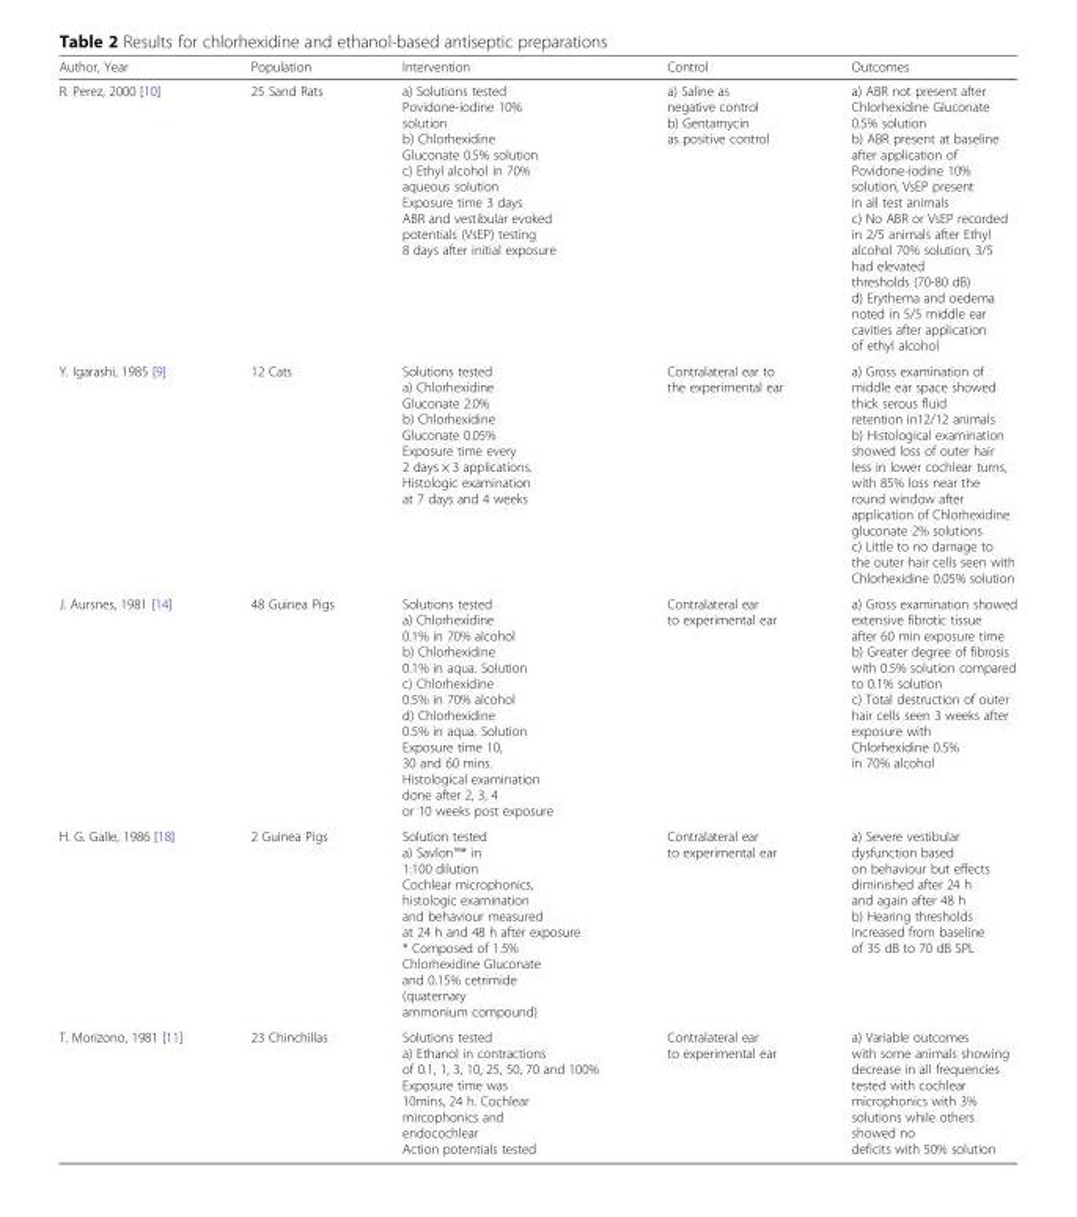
<table><thead><tr><td>Author, Year</td><td>Population</td><td>Intervention</td><td>Control</td><td>Outcomes</td></tr></thead><tbody><tr><td>R. Perez, 2000 [10]</td><td>25 Sand Rats</td><td>a) Solutions tested Povidone-iodine 10% solution b) Chlorhexidine Gluconate 0.5% solution c) Ethyl alcohol in 70% aqueous solution Exposure time 3 days ABR and vestibular evoked potentials (VsEP) testing 8 days after initial exposure</td><td>a) Saline as negative control b) Gentamycin as positive control</td><td>a) ABR not present after Chlorhexidine Gluconate 0.5% solution b) ABR present at baseline after application of Povidone-iodine 10% solution, VsEP present in all test animals c) No ABR or VsEP recorded in 2/5 animals after Ethyl alcohol 70% solution, 3/5 had elevated thresholds (70-80 dB) d) Erythema and oedema noted in 5/5 middle ear cavities after application of ethyl alcohol</td></tr><tr><td>Y. Igarashi, 1985 [9]</td><td>12 Cats</td><td>Solutions tested a) Chlorhexidine Gluconate 2.0% b) Chlorhexidine Gluconate 0.05% Exposure time every 2 days × 3 applications. Histologic examination at 7 days and 4 weeks</td><td>Contralateral ear to the experimental ear</td><td>a) Gross examination of middle ear space showed thick serous fluid retention in12/12 animals b) Histological examination showed loss of outer hair less in lower cochlear turns, with 85% loss near the round window after application of Chlorhexidine gluconate 2% solutions c) Little to no damage to the outer hair cells seen with Chlorhexidine 0.05% solution</td></tr><tr><td>J. Aursnes, 1981 [14]</td><td>48 Guinea Pigs</td><td>Solutions tested a) Chlorhexidine 0.1% in 70% alcohol b) Chlorhexidine 0.1% in aqua. Solution c) Chlorhexidine 0.5% in 70% alcohol d) Chlorhexidine 0.5% in aqua. Solution Exposure time 10, 30 and 60 mins. Histological examination done after 2, 3, 4 or 10 weeks post exposure</td><td>Contralateral ear to experimental ear</td><td>a) Gross examination showed extensive fibrotic tissue after 60 min exposure time b) Greater degree of fibrosis with 0.5% solution compared to 0.1% solution c) Total destruction of outer hair cells seen 3 weeks after exposure with Chlorhexidine 0.5% in 70% alcohol</td></tr><tr><td>H. G. Galle, 1986 [18]</td><td>2 Guinea Pigs</td><td>Solution tested a) Savlon™* in 1:100 dilution Cochlear microphonics, histologic examination and behaviour measured at 24 h and 48 h after exposure * Composed of 1.5% Chlorhexidine Gluconate and 0.15% cetrimide (quaternary ammonium compound)</td><td>Contralateral ear to experimental ear</td><td>a) Severe vestibular dysfunction based on behaviour but effects diminished after 24 h and again after 48 h b) Hearing thresholds increased from baseline of 35 dB to 70 dB SPL</td></tr><tr><td>T. Morizono, 1981 [11]</td><td>23 Chinchillas</td><td>Solutions tested a) Ethanol in contractions of 0.1, 1, 3, 10, 25, 50, 70 and 100% Exposure time was 10mins, 24 h. Cochlear mircophonics and endocochlear Action potentials tested</td><td>Contralateral ear to experimental ear</td><td>a) Variable outcomes with some animals showing decrease in all frequencies tested with cochlear microphonics with 3% solutions while others showed no deficits with 50% solution</td></tr></tbody></table>